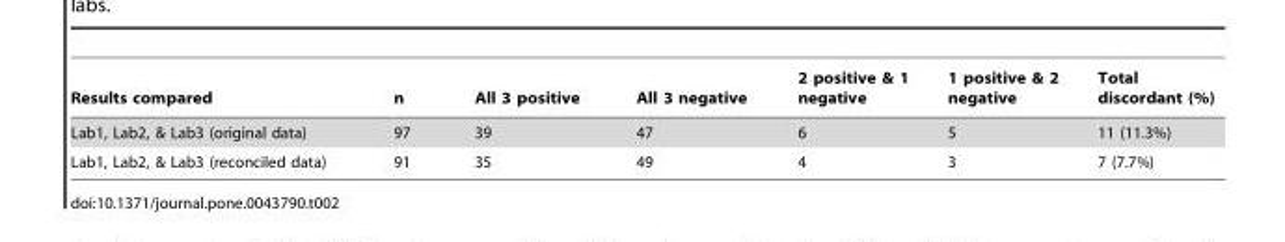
<table><thead><tr><td>Results compared</td><td>n</td><td>All 3 positive</td><td>All 3 negative</td><td>2 positive &amp; 1 negative</td><td>1 positive &amp; 2 negative</td><td>Total discordant (%)</td></tr></thead><tbody><tr><td>Lab1, Lab2, &amp; Lab3 (original data)</td><td>97</td><td>39</td><td>47</td><td>6</td><td>5</td><td>11 (11.3%)</td></tr><tr><td>Lab1, Lab2, &amp; Lab3 (reconciled data)</td><td>91</td><td>35</td><td>49</td><td>4</td><td>3</td><td>7 (7.7%)</td></tr></tbody></table>